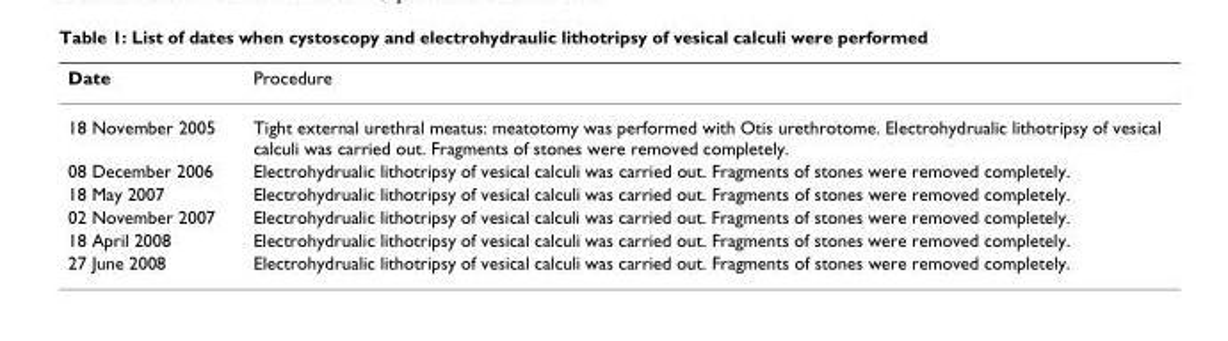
<table><thead><tr><td>Date</td><td>Procedure</td></tr></thead><tbody><tr><td>18 November 2005</td><td>Tight external urethral meatus: meatotomy was performed with Otis urethrotome. Electrohydrualic lithotripsy of vesical calculi was carried out. Fragments of stones were removed completely.</td></tr><tr><td>08 December 2006</td><td>Electrohydrualic lithotripsy of vesical calculi was carried out. Fragments of stones were removed completely.</td></tr><tr><td>18 May 2007</td><td>Electrohydrualic lithotripsy of vesical calculi was carried out. Fragments of stones were removed completely.</td></tr><tr><td>02 November 2007</td><td>Electrohydrualic lithotripsy of vesical calculi was carried out. Fragments of stones were removed completely.</td></tr><tr><td>18 April 2008</td><td>Electrohydrualic lithotripsy of vesical calculi was carried out. Fragments of stones were removed completely.</td></tr><tr><td>27 June 2008</td><td>Electrohydrualic lithotripsy of vesical calculi was carried out. Fragments of stones were removed completely.</td></tr></tbody></table>